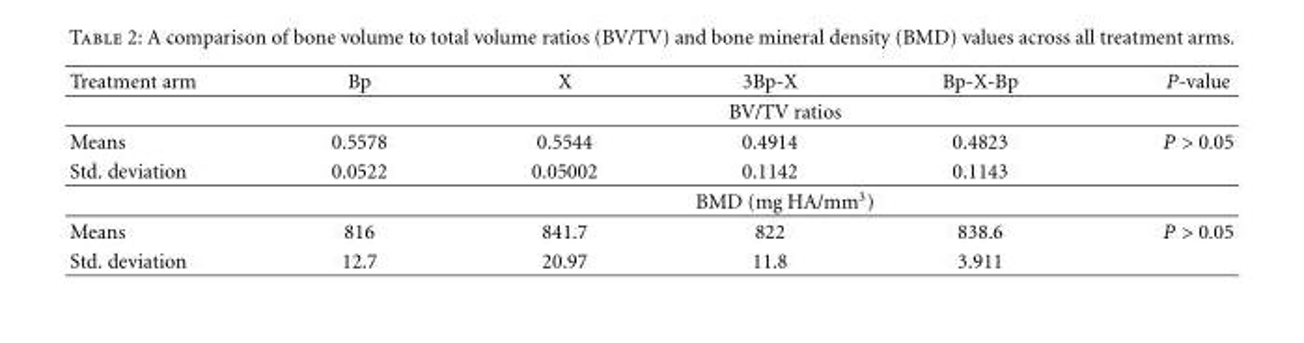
<table><thead><tr><td>Treatment arm</td><td>Bp</td><td>X</td><td>3Bp-X</td><td>Bp-X-Bp</td><td>P-value</td></tr></thead><tbody><tr><td></td><td colspan="5">BV/TV ratios</td></tr><tr><td>Means</td><td>0.5578</td><td>0.5544</td><td>0.4914</td><td>0.4823</td><td>P &gt; 0.05</td></tr><tr><td rowspan="2">Std. deviation</td><td>0.0522</td><td>0.05002</td><td>0.1142</td><td>0.1143</td><td></td></tr><tr><td colspan="5">BMD (mg HA/mm<sup>3</sup>)</td></tr><tr><td>Means</td><td>816</td><td>841.7</td><td>822</td><td>838.6</td><td>P &gt; 0.05</td></tr><tr><td>Std. deviation</td><td>12.7</td><td>20.97</td><td>11.8</td><td>3.911</td><td></td></tr></tbody></table>